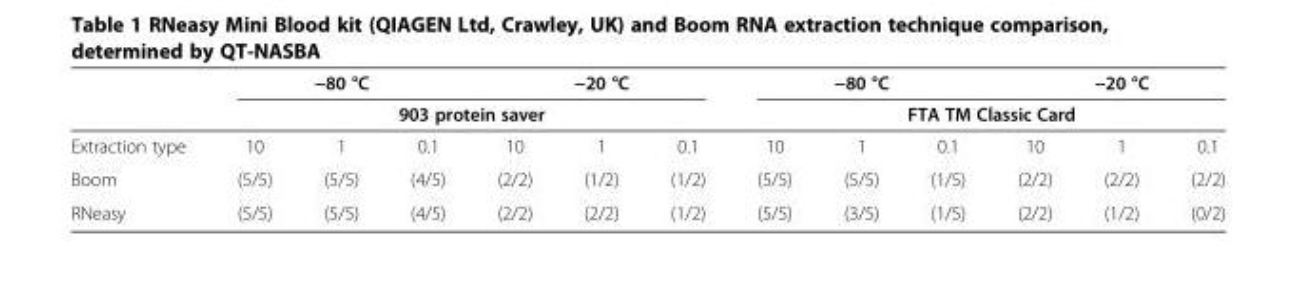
<table><thead><tr><td rowspan="3">Extraction type</td><td colspan="3">−80 °C</td><td colspan="3">−20 °C</td><td colspan="3">−80 °C</td><td colspan="3">−20 °C</td></tr><tr><td colspan="6">903 protein saver</td><td colspan="6">FTA TM Classic Card</td></tr><tr><td>10</td><td>1</td><td>0.1</td><td>10</td><td>1</td><td>0.1</td><td>10</td><td>1</td><td>0.1</td><td>10</td><td>1</td><td>0.1</td></tr></thead><tbody><tr><td>Boom</td><td>(5/5)</td><td>(5/5)</td><td>(4/5)</td><td>(2/2)</td><td>(1/2)</td><td>(1/2)</td><td>(5/5)</td><td>(5/5)</td><td>(1/5)</td><td>(2/2)</td><td>(2/2)</td><td>(2/2)</td></tr><tr><td>RNeasy</td><td>(5/5)</td><td>(5/5)</td><td>(4/5)</td><td>(2/2)</td><td>(2/2)</td><td>(1/2)</td><td>(5/5)</td><td>(3/5)</td><td>(1/5)</td><td>(2/2)</td><td>(1/2)</td><td>(0/2)</td></tr></tbody></table>